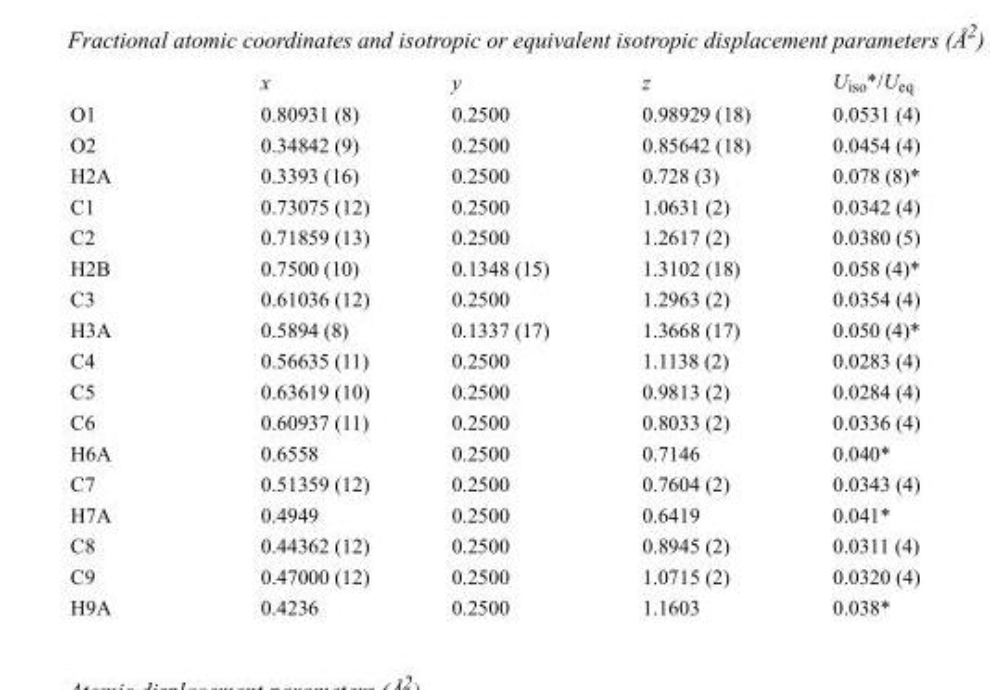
<table><thead><tr><td></td><td>x</td><td>y</td><td>z</td><td>U<sub>iso</sub>*/U<sub>eq</sub></td></tr></thead><tbody><tr><td>O1</td><td>0.80931 (8)</td><td>0.2500</td><td>0.98929 (18)</td><td>0.0531 (4)</td></tr><tr><td>O2</td><td>0.34842 (9)</td><td>0.2500</td><td>0.85642 (18)</td><td>0.0454 (4)</td></tr><tr><td>H2A</td><td>0.3393 (16)</td><td>0.2500</td><td>0.728 (3)</td><td>0.078 (8)*</td></tr><tr><td>C1</td><td>0.73075 (12)</td><td>0.2500</td><td>1.0631 (2)</td><td>0.0342 (4)</td></tr><tr><td>C2</td><td>0.71859 (13)</td><td>0.2500</td><td>1.2617 (2)</td><td>0.0380 (5)</td></tr><tr><td>H2B</td><td>0.7500 (10)</td><td>0.1348 (15)</td><td>1.3102 (18)</td><td>0.058 (4)*</td></tr><tr><td>C3</td><td>0.61036 (12)</td><td>0.2500</td><td>1.2963 (2)</td><td>0.0354 (4)</td></tr><tr><td>H3A</td><td>0.5894 (8)</td><td>0.1337 (17)</td><td>1.3668 (17)</td><td>0.050 (4)*</td></tr><tr><td>C4</td><td>0.56635 (11)</td><td>0.2500</td><td>1.1138 (2)</td><td>0.0283 (4)</td></tr><tr><td>C5</td><td>0.63619 (10)</td><td>0.2500</td><td>0.9813 (2)</td><td>0.0284 (4)</td></tr><tr><td>C6</td><td>0.60937 (11)</td><td>0.2500</td><td>0.8033 (2)</td><td>0.0336 (4)</td></tr><tr><td>H6A</td><td>0.6558</td><td>0.2500</td><td>0.7146</td><td>0.040*</td></tr><tr><td>C7</td><td>0.51359 (12)</td><td>0.2500</td><td>0.7604 (2)</td><td>0.0343 (4)</td></tr><tr><td>H7A</td><td>0.4949</td><td>0.2500</td><td>0.6419</td><td>0.041*</td></tr><tr><td>C8</td><td>0.44362 (12)</td><td>0.2500</td><td>0.8945 (2)</td><td>0.0311 (4)</td></tr><tr><td>C9</td><td>0.47000 (12)</td><td>0.2500</td><td>1.0715 (2)</td><td>0.0320 (4)</td></tr><tr><td>H9A</td><td>0.4236</td><td>0.2500</td><td>1.1603</td><td>0.038*</td></tr></tbody></table>